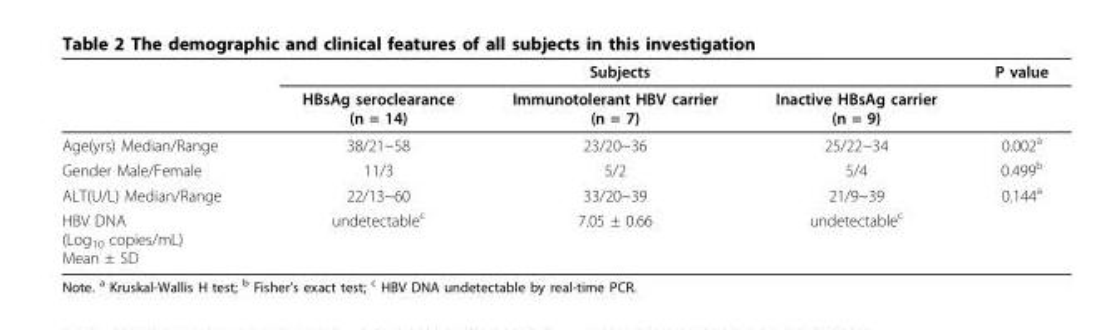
<table><thead><tr><td rowspan="2"></td><td colspan="3">Subjects</td><td rowspan="2">P value</td></tr><tr><td>HBsAg seroclearance (n = 14)</td><td>Immunotolerant HBV carrier (n = 7)</td><td>Inactive HBsAg carrier (n = 9)</td></tr></thead><tbody><tr><td>Age(yrs) Median/Range</td><td>38/21~58</td><td>23/20~36</td><td>25/22~34</td><td>0.002<sup>a</sup></td></tr><tr><td>Gender Male/Female</td><td>11/3</td><td>5/2</td><td>5/4</td><td>0.499<sup>b</sup></td></tr><tr><td>ALT(U/L) Median/Range</td><td>22/13~60</td><td>33/20~39</td><td>21/9~39</td><td>0.144<sup>a</sup></td></tr><tr><td>HBV DNA (Log<sub>10</sub> copies/mL) Mean ± SD</td><td>undetectable<sup>c</sup></td><td>7.05 ± 0.66</td><td>undetectable<sup>c</sup></td><td></td></tr></tbody></table>